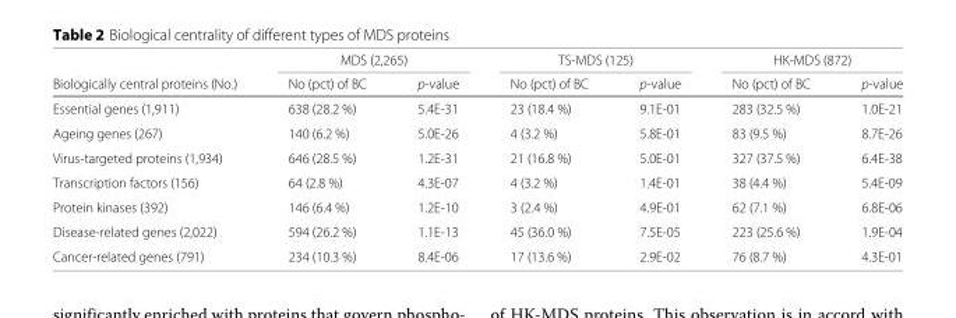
<table><thead><tr><td rowspan="2">Biologically central proteins (No.)</td><td colspan="2">MDS (2,265)</td><td colspan="2">TS-MDS (125)</td><td colspan="2">HK-MDS (872)</td></tr><tr><td>No (pct) of BC</td><td>p-value</td><td>No (pct) of BC</td><td>p-value</td><td>No (pct) of BC</td><td>p-value</td></tr></thead><tbody><tr><td>Essential genes (1,911)</td><td>638 (28.2 %)</td><td>5.4E-31</td><td>23 (18.4 %)</td><td>9.1E-01</td><td>283 (32.5 %)</td><td>1.0E-21</td></tr><tr><td>Ageing genes (267)</td><td>140 (6.2 %)</td><td>5.0E-26</td><td>4 (3.2 %)</td><td>5.8E-01</td><td>83 (9.5 %)</td><td>8.7E-26</td></tr><tr><td>Virus-targeted proteins (1,934)</td><td>646 (28.5 %)</td><td>1.2E-31</td><td>21 (16.8 %)</td><td>5.0E-01</td><td>327 (37.5 %)</td><td>6.4E-38</td></tr><tr><td>Transcription factors (156)</td><td>64 (2.8 %)</td><td>4.3E-07</td><td>4 (3.2 %)</td><td>1.4E-01</td><td>38 (4.4 %)</td><td>5.4E-09</td></tr><tr><td>Protein kinases (392)</td><td>146 (6.4 %)</td><td>1.2E-10</td><td>3 (2.4 %)</td><td>4.9E-01</td><td>62 (7.1 %)</td><td>6.8E-06</td></tr><tr><td>Disease-related genes (2,022)</td><td>594 (26.2 %)</td><td>1.1E-13</td><td>45 (36.0 %)</td><td>7.5E-05</td><td>223 (25.6 %)</td><td>1.9E-04</td></tr><tr><td>Cancer-related genes (791)</td><td>234 (10.3 %)</td><td>8.4E-06</td><td>17 (13.6 %)</td><td>2.9E-02</td><td>76 (8.7 %)</td><td>4.3E-01</td></tr></tbody></table>